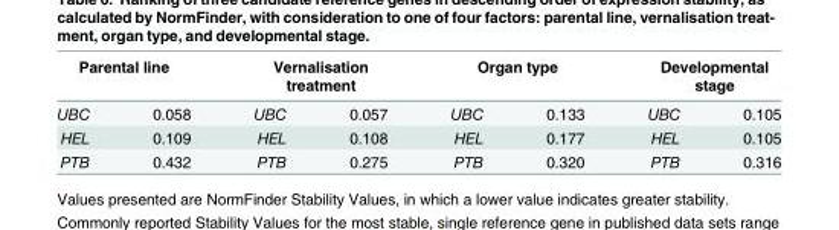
<table><thead><tr><td colspan="2">Parental line</td><td colspan="2">Vernalisation treatment</td><td colspan="2">Organ type</td><td colspan="2">Developmental stage</td></tr><tr><td>UBC</td><td>0.058</td><td>UBC</td><td>0.057</td><td>UBC</td><td>0.133</td><td>UBC</td><td>0.105</td></tr></thead><tbody><tr><td>HEL</td><td>0.109</td><td>HEL</td><td>0.108</td><td>HEL</td><td>0.177</td><td>HEL</td><td>0.105</td></tr><tr><td>PTB</td><td>0.432</td><td>PTB</td><td>0.275</td><td>PTB</td><td>0.320</td><td>PTB</td><td>0.316</td></tr></tbody></table>